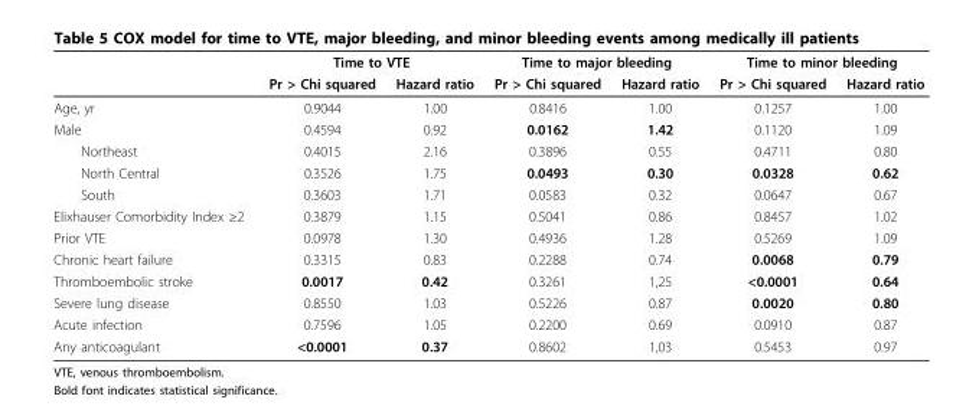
<table><thead><tr><td rowspan="2"></td><td colspan="2">Time to VTE</td><td colspan="2">Time to major bleeding</td><td colspan="2">Time to minor bleeding</td></tr><tr><td>Pr &gt; Chi squared</td><td>Hazard ratio</td><td>Pr &gt; Chi squared</td><td>Hazard ratio</td><td>Pr &gt; Chi squared</td><td>Hazard ratio</td></tr></thead><tbody><tr><td>Age, yr</td><td>0.9044</td><td>1.00</td><td>0.8416</td><td>1.00</td><td>0.1257</td><td>1.00</td></tr><tr><td>Male</td><td>0.4594</td><td>0.92</td><td>0.0162</td><td>1.42</td><td>0.1120</td><td>1.09</td></tr><tr><td>Northeast</td><td>0.4015</td><td>2.16</td><td>0.3896</td><td>0.55</td><td>0.4711</td><td>0.80</td></tr><tr><td>North Central</td><td>0.3526</td><td>1.75</td><td>0.0493</td><td>0.30</td><td>0.0328</td><td>0.62</td></tr><tr><td>South</td><td>0.3603</td><td>1.71</td><td>0.0583</td><td>0.32</td><td>0.0647</td><td>0.67</td></tr><tr><td>Elixhauser Comorbidity Index ≥2</td><td>0.3879</td><td>1.15</td><td>0.5041</td><td>0.86</td><td>0.8457</td><td>1.02</td></tr><tr><td>Prior VTE</td><td>0.0978</td><td>1.30</td><td>0.4936</td><td>1.28</td><td>0.5269</td><td>1.09</td></tr><tr><td>Chronic heart failure</td><td>0.3315</td><td>0.83</td><td>0.2288</td><td>0.74</td><td>0.0068</td><td>0.79</td></tr><tr><td>Thromboembolic stroke</td><td>0.0017</td><td>0.42</td><td>0.3261</td><td>1,25</td><td>&lt;0.0001</td><td>0.64</td></tr><tr><td>Severe lung disease</td><td>0.8550</td><td>1.03</td><td>0.5226</td><td>0.87</td><td>0.0020</td><td>0.80</td></tr><tr><td>Acute infection</td><td>0.7596</td><td>1.05</td><td>0.2200</td><td>0.69</td><td>0.0910</td><td>0.87</td></tr><tr><td>Any anticoagulant</td><td>&lt;0.0001</td><td>0.37</td><td>0.8602</td><td>1,03</td><td>0.5453</td><td>0.97</td></tr></tbody></table>